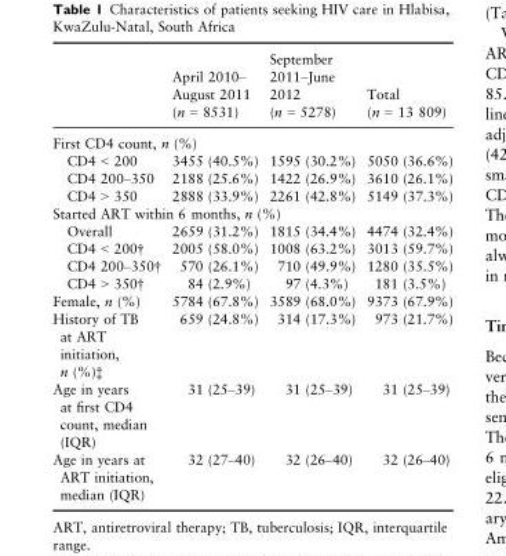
<table><thead><tr><td></td><td>April 2010– August 2011 (n = 8531)</td><td>September 2011–June 2012 (n = 5278)</td><td>Total (n = 13 809)</td></tr></thead><tbody><tr><td colspan="4">First CD4 count, n (%)</td></tr><tr><td>CD4 &lt; 200</td><td>3455 (40.5%)</td><td>1595 (30.2%)</td><td>5050 (36.6%)</td></tr><tr><td>CD4 200–350</td><td>2188 (25.6%)</td><td>1422 (26.9%)</td><td>3610 (26.1%)</td></tr><tr><td>CD4 &gt; 350</td><td>2888 (33.9%)</td><td>2261 (42.8%)</td><td>5149 (37.3%)</td></tr><tr><td colspan="4">Started ART within 6 months, n (%)</td></tr><tr><td>Overall</td><td>2659 (31.2%)</td><td>1815 (34.4%)</td><td>4474 (32.4%)</td></tr><tr><td>CD4 &lt; 200†</td><td>2005 (58.0%)</td><td>1008 (63.2%)</td><td>3013 (59.7%)</td></tr><tr><td>CD4 200–350†</td><td>570 (26.1%)</td><td>710 (49.9%)</td><td>1280 (35.5%)</td></tr><tr><td>CD4 &gt; 350†</td><td>84 (2.9%)</td><td>97 (4.3%)</td><td>181 (3.5%)</td></tr><tr><td>Female, n (%)</td><td>5784 (67.8%)</td><td>3589 (68.0%)</td><td>9373 (67.9%)</td></tr><tr><td>History of TB at ART initiation, n (%)‡</td><td>659 (24.8%)</td><td>314 (17.3%)</td><td>973 (21.7%)</td></tr><tr><td>Age in years at first CD4 count, median (IQR)</td><td>31 (25–39)</td><td>31 (25–39)</td><td>31 (25–39)</td></tr><tr><td>Age in years at ART initiation, median (IQR)</td><td>32 (27–40)</td><td>32 (26–40)</td><td>32 (26–40)</td></tr></tbody></table>